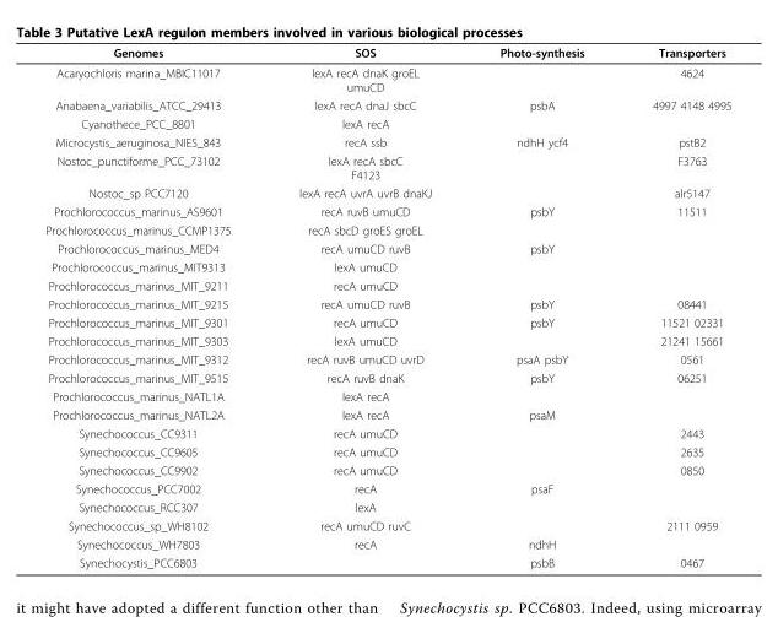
<table><thead><tr><td>Genomes</td><td>SOS</td><td>Photo-synthesis</td><td>Transporters</td></tr></thead><tbody><tr><td>Acaryochloris marina_MBIC11017</td><td>lexA recA dnaK groEL umuCD</td><td></td><td>4624</td></tr><tr><td>Anabaena_variabilis_ATCC_29413</td><td>lexA recA dnaJ sbcC</td><td>psbA</td><td>4997 4148 4995</td></tr><tr><td>Cyanothece_PCC_8801</td><td>lexA recA</td><td></td><td></td></tr><tr><td>Microcystis_aeruginosa_NIES_843</td><td>recA ssb</td><td>ndhH ycf4</td><td>pstB2</td></tr><tr><td>Nostoc_punctiforme_PCC_73102</td><td>lexA recA sbcC F4123</td><td></td><td>F3763</td></tr><tr><td>Nostoc_sp PCC7120</td><td>lexA recA uvrA uvrB dnaKJ</td><td></td><td>alr5147</td></tr><tr><td>Prochlorococcus_marinus_AS9601</td><td>recA ruvB umuCD</td><td>psbY</td><td>11511</td></tr><tr><td>Prochlorococcus_marinus_CCMP1375</td><td>recA sbcD groES groEL</td><td></td><td></td></tr><tr><td>Prochlorococcus_marinus_MED4</td><td>recA umuCD ruvB</td><td>psbY</td><td></td></tr><tr><td>Prochlorococcus_marinus_MIT9313</td><td>lexA umuCD</td><td></td><td></td></tr><tr><td>Prochlorococcus_marinus_MIT_9211</td><td>recA umuCD</td><td></td><td></td></tr><tr><td>Prochlorococcus_marinus_MIT_9215</td><td>recA umuCD ruvB</td><td>psbY</td><td>08441</td></tr><tr><td>Prochlorococcus_marinus_MIT_9301</td><td>recA umuCD</td><td>psbY</td><td>11521 02331</td></tr><tr><td>Prochlorococcus_marinus_MIT_9303</td><td>lexA umuCD</td><td></td><td>21241 15661</td></tr><tr><td>Prochlorococcus_marinus_MIT_9312</td><td>recA ruvB umuCD uvrD</td><td>psaA psbY</td><td>0561</td></tr><tr><td>Prochlorococcus_marinus_MIT_9515</td><td>recA ruvB dnaK</td><td>psbY</td><td>06251</td></tr><tr><td>Prochlorococcus_marinus_NATL1A</td><td>lexA recA</td><td></td><td></td></tr><tr><td>Prochlorococcus_marinus_NATL2A</td><td>lexA recA</td><td>psaM</td><td></td></tr><tr><td>Synechococcus_CC9311</td><td>recA umuCD</td><td></td><td>2443</td></tr><tr><td>Synechococcus_CC9605</td><td>recA umuCD</td><td></td><td>2635</td></tr><tr><td>Synechococcus_CC9902</td><td>recA umuCD</td><td></td><td>0850</td></tr><tr><td>Synechococcus_PCC7002</td><td>recA</td><td>psaF</td><td></td></tr><tr><td>Synechococcus_RCC307</td><td>lexA</td><td></td><td></td></tr><tr><td>Synechococcus_sp_WH8102</td><td>recA umuCD ruvC</td><td></td><td>2111 0959</td></tr><tr><td>Synechococcus_WH7803</td><td>recA</td><td>ndhH</td><td></td></tr><tr><td>Synechocystis_PCC6803</td><td></td><td>psbB</td><td>0467</td></tr></tbody></table>